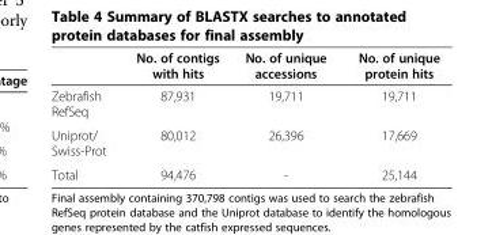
<table><thead><tr><td></td><td>No. of contigs with hits</td><td>No. of unique accessions</td><td>No. of unique protein hits</td></tr></thead><tbody><tr><td>Zebrafish RefSeq</td><td>87,931</td><td>19,711</td><td>19,711</td></tr><tr><td>Uniprot/ Swiss-Prot</td><td>80,012</td><td>26,396</td><td>17,669</td></tr><tr><td>Total</td><td>94,476</td><td>-</td><td>25,144</td></tr></tbody></table>